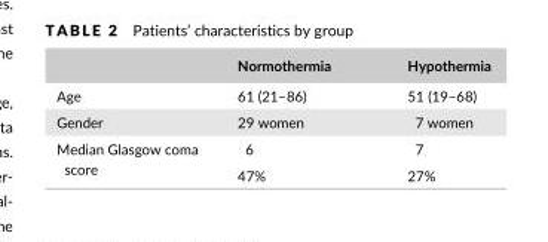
<table><thead><tr><td></td><td>Normothermia</td><td>Hypothermia</td></tr></thead><tbody><tr><td>Age</td><td>61 (21–86)</td><td>51 (19–68)</td></tr><tr><td>Gender</td><td>29 women</td><td>7 women</td></tr><tr><td rowspan="2">Median Glasgow coma score</td><td>6</td><td>7</td></tr><tr><td>47%</td><td>27%</td></tr></tbody></table>